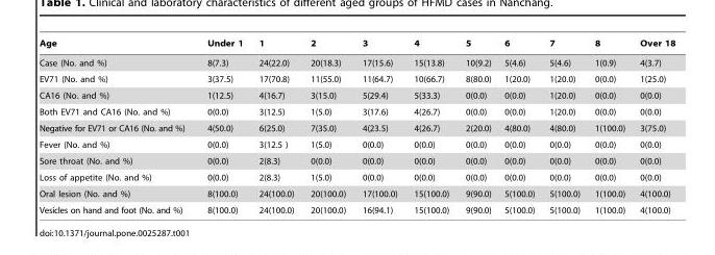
<table><thead><tr><td>Age</td><td>Under 1</td><td>1</td><td>2</td><td>3</td><td>4</td><td>5</td><td>6</td><td>7</td><td>8</td><td>Over 18</td></tr></thead><tbody><tr><td>Case (No. and %)</td><td>8(7.3)</td><td>24(22.0)</td><td>20(18.3)</td><td>17(15.6)</td><td>15(13.8)</td><td>10(9.2)</td><td>5(4.6)</td><td>5(4.6)</td><td>1(0.9)</td><td>4(3.7)</td></tr><tr><td>EV71 (No. and %)</td><td>3(37.5)</td><td>17(70.8)</td><td>11(55.0)</td><td>11(64.7)</td><td>10(66.7)</td><td>8(80.0)</td><td>1(20.0)</td><td>1(20.0)</td><td>0(0.0)</td><td>1(25.0)</td></tr><tr><td>CA16 (No. and %)</td><td>1(12.5)</td><td>4(16.7)</td><td>3(15.0)</td><td>5(29.4)</td><td>5(33.3)</td><td>0(0.0)</td><td>0(0.0)</td><td>1(20.0)</td><td>0(0.0)</td><td>0(0.0)</td></tr><tr><td>Both EV71 and CA16 (No. and %)</td><td>0(0.0)</td><td>3(12.5)</td><td>1(5.0)</td><td>3(17.6)</td><td>4(26.7)</td><td>0(0.0)</td><td>0(0.0)</td><td>1(20.0)</td><td>0(0.0)</td><td>0(0.0)</td></tr><tr><td>Negative for EV71 or CA16 (No. and %)</td><td>4(50.0)</td><td>6(25.0)</td><td>7(35.0)</td><td>4(23.5)</td><td>4(26.7)</td><td>2(20.0)</td><td>4(80.0)</td><td>4(80.0)</td><td>1(100.0)</td><td>3(75.0)</td></tr><tr><td>Fever (No. and %)</td><td>0(0.0)</td><td>3(12.5 )</td><td>1(5.0)</td><td>0(0.0)</td><td>0(0.0)</td><td>0(0.0)</td><td>0(0.0)</td><td>0(0.0)</td><td>0(0.0)</td><td>0(0.0)</td></tr><tr><td>Sore throat (No. and %)</td><td>0(0.0)</td><td>2(8.3)</td><td>0(0.0)</td><td>0(0.0)</td><td>0(0.0)</td><td>0(0.0)</td><td>0(0.0)</td><td>0(0.0)</td><td>0(0.0)</td><td>0(0.0)</td></tr><tr><td>Loss of appetite (No. and %)</td><td>0(0.0)</td><td>2(8.3)</td><td>1(5.0)</td><td>0(0.0)</td><td>0(0.0)</td><td>0(0.0)</td><td>0(0.0)</td><td>0(0.0)</td><td>0(0.0)</td><td>0(0.0)</td></tr><tr><td>Oral lesion (No. and %)</td><td>8(100.0)</td><td>24(100.0)</td><td>20(100.0)</td><td>17(100.0)</td><td>15(100.0)</td><td>9(90.0)</td><td>5(100.0)</td><td>5(100.0)</td><td>1(100.0)</td><td>4(100.0)</td></tr><tr><td>Vesicles on hand and foot (No. and %)</td><td>8(100.0)</td><td>24(100.0)</td><td>20(100.0)</td><td>16(94.1)</td><td>15(100.0)</td><td>9(90.0)</td><td>5(100.0)</td><td>5(100.0)</td><td>1(100.0)</td><td>4(100.0)</td></tr></tbody></table>